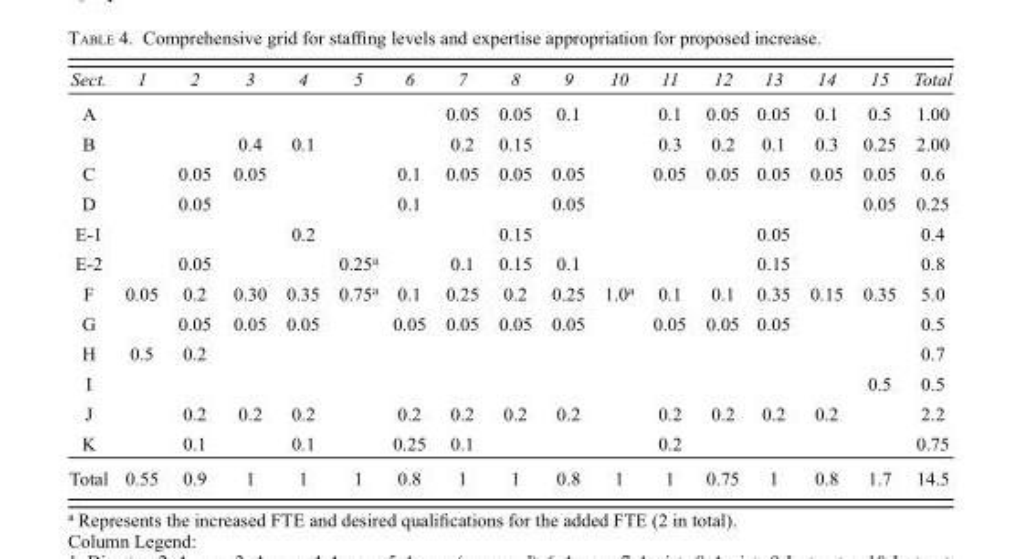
<table><thead><tr><td>Sect.</td><td>1</td><td>2</td><td>3</td><td>4</td><td>5</td><td>6</td><td>7</td><td>8</td><td>9</td><td>10</td><td>11</td><td>12</td><td>13</td><td>14</td><td>15</td><td>Total</td></tr></thead><tbody><tr><td>A</td><td></td><td></td><td></td><td></td><td></td><td></td><td>0.05</td><td>0.05</td><td>0.1</td><td></td><td>0.1</td><td>0.05</td><td>0.05</td><td>0.1</td><td>0.5</td><td>1.00</td></tr><tr><td>B</td><td></td><td></td><td>0.4</td><td>0.1</td><td></td><td></td><td>0.2</td><td>0.15</td><td></td><td></td><td>0.3</td><td>0.2</td><td>0.1</td><td>0.3</td><td>0.25</td><td>2.00</td></tr><tr><td>C</td><td></td><td>0.05</td><td>0.05</td><td></td><td></td><td>0.1</td><td>0.05</td><td>0.05</td><td>0.05</td><td></td><td>0.05</td><td>0.05</td><td>0.05</td><td>0.05</td><td>0.05</td><td>0.6</td></tr><tr><td>D</td><td></td><td>0.05</td><td></td><td></td><td></td><td>0.1</td><td></td><td></td><td>0.05</td><td></td><td></td><td></td><td></td><td></td><td>0.05</td><td>0.25</td></tr><tr><td>E-1</td><td></td><td></td><td></td><td>0.2</td><td></td><td></td><td></td><td>0.15</td><td></td><td></td><td></td><td></td><td>0.05</td><td></td><td></td><td>0.4</td></tr><tr><td>E-2</td><td></td><td>0.05</td><td></td><td></td><td>0.25<sup>a</sup></td><td></td><td>0.1</td><td>0.15</td><td>0.1</td><td></td><td></td><td></td><td>0.15</td><td></td><td></td><td>0.8</td></tr><tr><td>F</td><td>0.05</td><td>0.2</td><td>0.30</td><td>0.35</td><td>0.75<sup>a</sup></td><td>0.1</td><td>0.25</td><td>0.2</td><td>0.25</td><td>1.0<sup>a</sup></td><td>0.1</td><td>0.1</td><td>0.35</td><td>0.15</td><td>0.35</td><td>5.0</td></tr><tr><td>G</td><td></td><td>0.05</td><td>0.05</td><td>0.05</td><td></td><td>0.05</td><td>0.05</td><td>0.05</td><td>0.05</td><td></td><td>0.05</td><td>0.05</td><td>0.05</td><td></td><td></td><td>0.5</td></tr><tr><td>H</td><td>0.5</td><td>0.2</td><td></td><td></td><td></td><td></td><td></td><td></td><td></td><td></td><td></td><td></td><td></td><td></td><td></td><td>0.7</td></tr><tr><td>I</td><td></td><td></td><td></td><td></td><td></td><td></td><td></td><td></td><td></td><td></td><td></td><td></td><td></td><td></td><td>0.5</td><td>0.5</td></tr><tr><td>J</td><td></td><td>0.2</td><td>0.2</td><td>0.2</td><td></td><td>0.2</td><td>0.2</td><td>0.2</td><td>0.2</td><td></td><td>0.2</td><td>0.2</td><td>0.2</td><td>0.2</td><td></td><td>2.2</td></tr><tr><td>K</td><td></td><td>0.1</td><td></td><td>0.1</td><td></td><td>0.25</td><td>0.1</td><td></td><td></td><td></td><td>0.2</td><td></td><td></td><td></td><td></td><td>0.75</td></tr><tr><td>Total</td><td>0.55</td><td>0.9</td><td>1</td><td>1</td><td>1</td><td>0.8</td><td>1</td><td>1</td><td>0.8</td><td>1</td><td>1</td><td>0.75</td><td>1</td><td>0.8</td><td>1.7</td><td>14.5</td></tr></tbody></table>